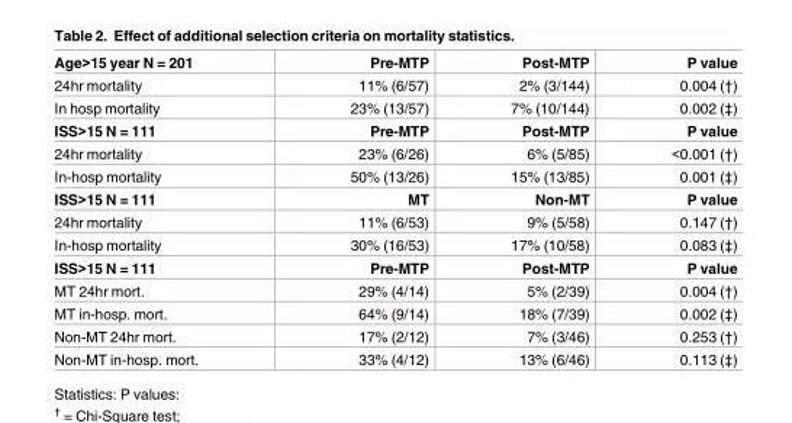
<table><tbody><tr><td>Age&gt;15 year N = 201</td><td>Pre-MTP</td><td>Post-MTP</td><td>P value</td></tr><tr><td>24hr mortality</td><td>11% (6/57)</td><td>2% (3/144)</td><td>0.004 (†)</td></tr><tr><td>In hosp mortality</td><td>23% (13/57)</td><td>7% (10/144)</td><td>0.002 (‡)</td></tr><tr><td>ISS&gt;15 N = 111</td><td>Pre-MTP</td><td>Post-MTP</td><td>P value</td></tr><tr><td>24hr mortality</td><td>23% (6/26)</td><td>6% (5/85)</td><td>&lt;0.001 (†)</td></tr><tr><td>In-hosp mortality</td><td>50% (13/26)</td><td>15% (13/85)</td><td>0.001 (‡)</td></tr><tr><td>ISS&gt;15 N = 111</td><td>MT</td><td>Non-MT</td><td>P value</td></tr><tr><td>24hr mortality</td><td>11% (6/53)</td><td>9% (5/58)</td><td>0.147 (†)</td></tr><tr><td>In-hosp mortality</td><td>30% (16/53)</td><td>17% (10/58)</td><td>0.083 (‡)</td></tr><tr><td>ISS&gt;15 N = 111</td><td>Pre-MTP</td><td>Post-MTP</td><td>P value</td></tr><tr><td>MT 24hr mort.</td><td>29% (4/14)</td><td>5% (2/39)</td><td>0.004 (†)</td></tr><tr><td>MT in-hosp. mort.</td><td>64% (9/14)</td><td>18% (7/39)</td><td>0.002 (‡)</td></tr><tr><td>Non-MT 24hr mort.</td><td>17% (2/12)</td><td>7% (3/46)</td><td>0.253 (†)</td></tr><tr><td>Non-MT in-hosp. mort.</td><td>33% (4/12)</td><td>13% (6/46)</td><td>0.113 (‡)</td></tr></tbody></table>